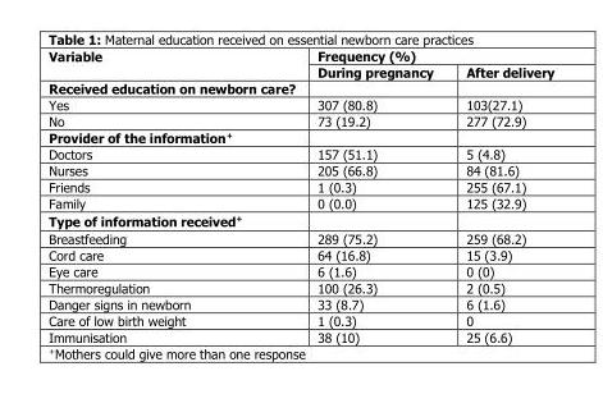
<table><thead><tr><td rowspan="2">Variable</td><td colspan="2">Frequency (%)</td></tr><tr><td>During pregnancy</td><td>After delivery</td></tr></thead><tbody><tr><td colspan="3">Received education on newborn care?</td></tr><tr><td>Yes</td><td>307 (80.8)</td><td>103(27.1)</td></tr><tr><td>No</td><td>73 (19.2)</td><td>277 (72.9)</td></tr><tr><td colspan="3">Provider of the information+</td></tr><tr><td>Doctors</td><td>157 (51.1)</td><td>5 (4.8)</td></tr><tr><td>Nurses</td><td>205 (66.8)</td><td>84 (81.6)</td></tr><tr><td>Friends</td><td>1 (0.3)</td><td>255 (67.1)</td></tr><tr><td>Family</td><td>0 (0.0)</td><td>125 (32.9)</td></tr><tr><td colspan="3">Type of information received+</td></tr><tr><td>Breastfeeding</td><td>289 (75.2)</td><td>259 (68.2)</td></tr><tr><td>Cord care</td><td>64 (16.8)</td><td>15 (3.9)</td></tr><tr><td>Eye care</td><td>6 (1.6)</td><td>0 (0)</td></tr><tr><td>Thermoregulation</td><td>100 (26.3)</td><td>2 (0.5)</td></tr><tr><td>Danger signs in newborn</td><td>33 (8.7)</td><td>6 (1.6)</td></tr><tr><td>Care of low birth weight</td><td>1 (0.3)</td><td>0</td></tr><tr><td>Immunisation</td><td>38 (10)</td><td>25 (6.6)</td></tr></tbody></table>